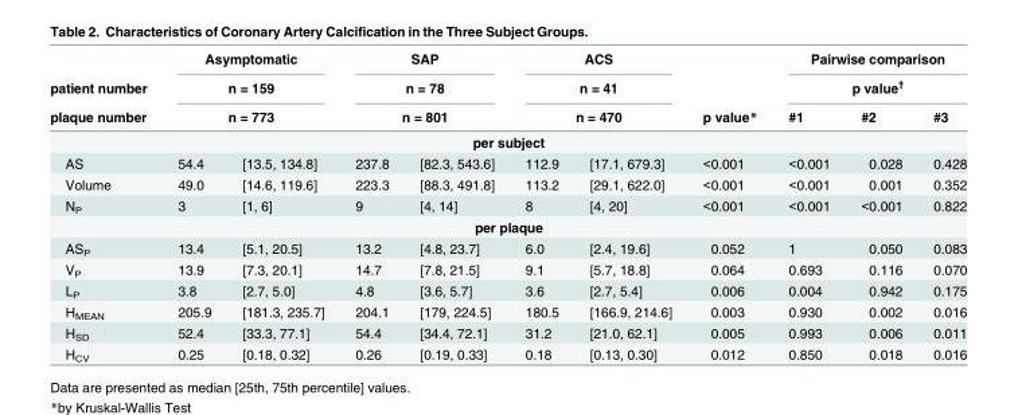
<table><thead><tr><td rowspan="3">patient number plaque number</td><td rowspan="3" colspan="2">Asymptomatic n = 159 n = 773</td><td rowspan="3" colspan="2">SAP n = 78 n = 801</td><td rowspan="3" colspan="2">ACS n = 41 n = 470</td><td rowspan="3">p value*</td><td rowspan="2" colspan="3">Pairwise comparison p value<sup>†</sup></td></tr><tr></tr><tr><td>#1</td><td>#2</td><td>#3</td></tr><tr><td colspan="11">per subject</td></tr><tr><td>AS</td><td>54.4</td><td>[13.5, 134.8]</td><td>237.8</td><td>[82.3, 543.6]</td><td>112.9</td><td>[17.1, 679.3]</td><td>&lt;0.001</td><td>&lt;0.001</td><td>0.028</td><td>0.428</td></tr></thead><tbody><tr><td>Volume</td><td>49.0</td><td>[14.6, 119.6]</td><td>223.3</td><td>[88.3, 491.8]</td><td>113.2</td><td>[29.1, 622.0]</td><td>&lt;0.001</td><td>&lt;0.001</td><td>0.001</td><td>0.352</td></tr><tr><td>N<sub>P</sub></td><td>3</td><td>[1, 6]</td><td>9</td><td>[4, 14]</td><td>8</td><td>[4, 20]</td><td>&lt;0.001</td><td>&lt;0.001</td><td>&lt;0.001</td><td>0.822</td></tr><tr><td colspan="11">per plaque</td></tr><tr><td>AS<sub>P</sub></td><td>13.4</td><td>[5.1, 20.5]</td><td>13.2</td><td>[4.8, 23.7]</td><td>6.0</td><td>[2.4, 19.6]</td><td>0.052</td><td>1</td><td>0.050</td><td>0.083</td></tr><tr><td>V<sub>P</sub></td><td>13.9</td><td>[7.3, 20.1]</td><td>14.7</td><td>[7.8, 21.5]</td><td>9.1</td><td>[5.7, 18.8]</td><td>0.064</td><td>0.693</td><td>0.116</td><td>0.070</td></tr><tr><td>L<sub>P</sub></td><td>3.8</td><td>[2.7, 5.0]</td><td>4.8</td><td>[3.6, 5.7]</td><td>3.6</td><td>[2.7, 5.4]</td><td>0.006</td><td>0.004</td><td>0.942</td><td>0.175</td></tr><tr><td>H<sub>MEAN</sub></td><td>205.9</td><td>[181.3, 235.7]</td><td>204.1</td><td>[179, 224.5]</td><td>180.5</td><td>[166.9, 214.6]</td><td>0.003</td><td>0.930</td><td>0.002</td><td>0.016</td></tr><tr><td>H<sub>SD</sub></td><td>52.4</td><td>[33.3, 77.1]</td><td>54.4</td><td>[34.4, 72.1]</td><td>31.2</td><td>[21.0, 62.1]</td><td>0.005</td><td>0.993</td><td>0.006</td><td>0.011</td></tr><tr><td>H<sub>CV</sub></td><td>0.25</td><td>[0.18, 0.32]</td><td>0.26</td><td>[0.19, 0.33]</td><td>0.18</td><td>[0.13, 0.30]</td><td>0.012</td><td>0.850</td><td>0.018</td><td>0.016</td></tr></tbody></table>